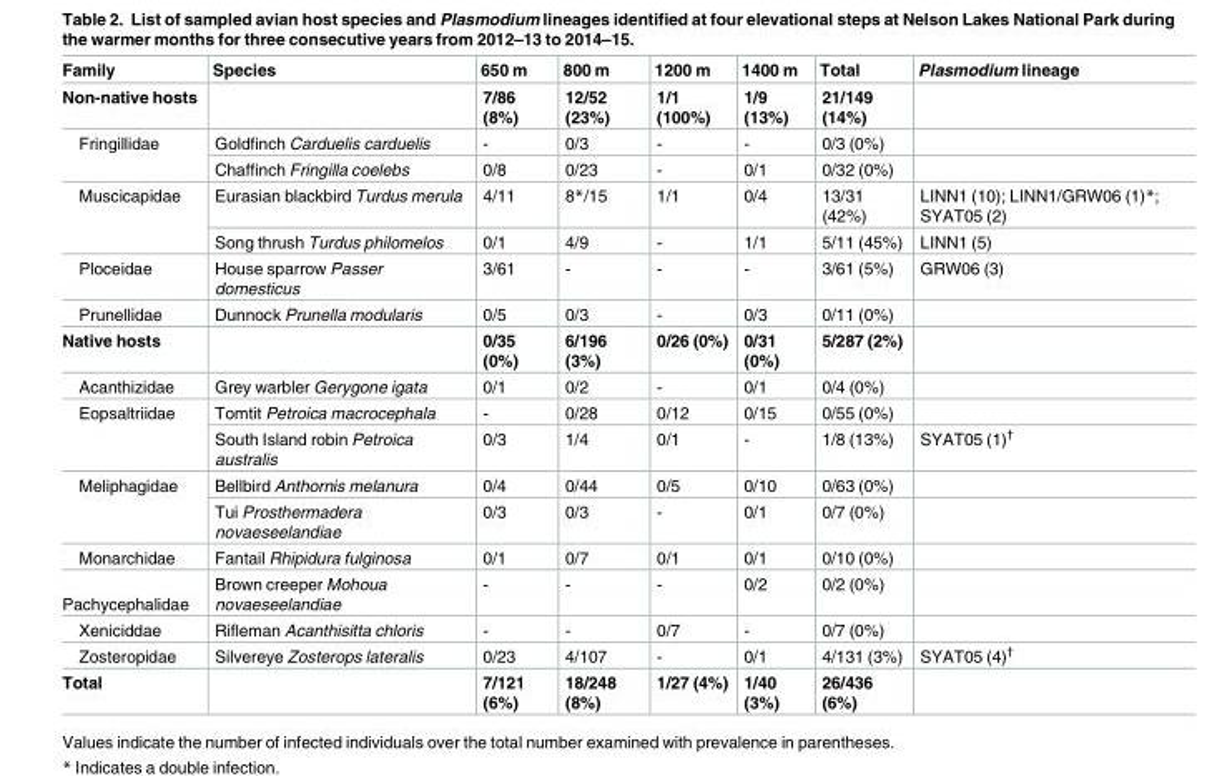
<table><thead><tr><td>Family</td><td>Species</td><td>650 m</td><td>800 m</td><td>1200 m</td><td>1400 m</td><td>Total</td><td>Plasmodium lineage</td></tr></thead><tbody><tr><td>Non-native hosts</td><td></td><td>7/86 (8%)</td><td>12/52 (23%)</td><td>1/1 (100%)</td><td>1/9 (13%)</td><td>21/149 (14%)</td><td></td></tr><tr><td rowspan="2">Fringillidae</td><td>Goldfinch Carduelis carduelis</td><td>-</td><td>0/3</td><td>-</td><td>-</td><td>0/3 (0%)</td><td></td></tr><tr><td>Chaffinch Fringilla coelebs</td><td>0/8</td><td>0/23</td><td>-</td><td>0/1</td><td>0/32 (0%)</td><td></td></tr><tr><td rowspan="2">Muscicapidae</td><td>Eurasian blackbird Turdus merula</td><td>4/11</td><td>8*/15</td><td>1/1</td><td>0/4</td><td>13/31 (42%)</td><td>LINN1 (10); LINN1/GRW06 (1)*; SYAT05 (2)</td></tr><tr><td>Song thrush Turdus philomelos</td><td>0/1</td><td>4/9</td><td>-</td><td>1/1</td><td>5/11 (45%)</td><td>LINN1 (5)</td></tr><tr><td>Ploceidae</td><td>House sparrow Passer domesticus</td><td>3/61</td><td>-</td><td>-</td><td>-</td><td>3/61 (5%)</td><td>GRW06 (3)</td></tr><tr><td>Prunellidae</td><td>Dunnock Prunella modularis</td><td>0/5</td><td>0/3</td><td>-</td><td>0/3</td><td>0/11 (0%)</td><td></td></tr><tr><td>Native hosts</td><td></td><td>0/35 (0%)</td><td>6/196 (3%)</td><td>0/26 (0%)</td><td>0/31 (0%)</td><td>5/287 (2%)</td><td></td></tr><tr><td>Acanthizidae</td><td>Grey warbler Gerygone igata</td><td>0/1</td><td>0/2</td><td>-</td><td>0/1</td><td>0/4 (0%)</td><td></td></tr><tr><td rowspan="2">Eopsaltriidae</td><td>Tomtit Petroica macrocephala</td><td>-</td><td>0/28</td><td>0/12</td><td>0/15</td><td>0/55 (0%)</td><td></td></tr><tr><td>South Island robin Petroica australis</td><td>0/3</td><td>1/4</td><td>0/1</td><td>-</td><td>1/8 (13%)</td><td>SYAT05 (1)<sup>†</sup></td></tr><tr><td rowspan="2">Meliphagidae</td><td>Bellbird Anthornis melanura</td><td>0/4</td><td>0/44</td><td>0/5</td><td>0/10</td><td>0/63 (0%)</td><td></td></tr><tr><td>Tui Prosthermadera novaeseelandiae</td><td>0/3</td><td>0/3</td><td>-</td><td>0/1</td><td>0/7 (0%)</td><td></td></tr><tr><td>Monarchidae</td><td>Fantail Rhipidura fulginosa</td><td>0/1</td><td>0/7</td><td>0/1</td><td>0/1</td><td>0/10 (0%)</td><td></td></tr><tr><td>Pachycephalidae</td><td>Brown creeper Mohoua novaeseelandiae</td><td>-</td><td>-</td><td>-</td><td>0/2</td><td>0/2 (0%)</td><td></td></tr><tr><td>Xeniciddae</td><td>Rifleman Acanthisitta chloris</td><td>-</td><td>-</td><td>0/7</td><td>-</td><td>0/7 (0%)</td><td></td></tr><tr><td>Zosteropidae</td><td>Silvereye Zosterops lateralis</td><td>0/23</td><td>4/107</td><td>-</td><td>0/1</td><td>4/131 (3%)</td><td>SYAT05 (4)<sup>†</sup></td></tr><tr><td>Total</td><td></td><td>7/121 (6%)</td><td>18/248 (8%)</td><td>1/27 (4%)</td><td>1/40 (3%)</td><td>26/436 (6%)</td><td></td></tr></tbody></table>